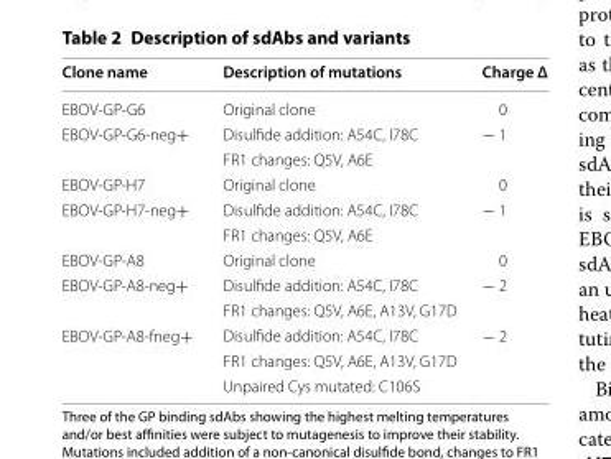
<table><thead><tr><td>Clone name</td><td>Description of mutations</td><td>Charge Δ</td></tr></thead><tbody><tr><td>EBOV‑GP‑G6</td><td>Original clone</td><td>0</td></tr><tr><td rowspan="2">EBOV‑GP‑G6‑neg+</td><td>Disulfide addition: A54C, I78C</td><td rowspan="2">− 1</td></tr><tr><td>FR1 changes: Q5V, A6E</td></tr><tr><td>EBOV‑GP‑H7</td><td>Original clone</td><td>0</td></tr><tr><td rowspan="2">EBOV‑GP‑H7‑neg+</td><td>Disulfide addition: A54C, I78C</td><td rowspan="2">− 1</td></tr><tr><td>FR1 changes: Q5V, A6E</td></tr><tr><td>EBOV‑GP‑A8</td><td>Original clone</td><td>0</td></tr><tr><td rowspan="2">EBOV‑GP‑A8‑neg+</td><td>Disulfide addition: A54C, I78C</td><td rowspan="2">− 2</td></tr><tr><td>FR1 changes: Q5V, A6E, A13V, G17D</td></tr><tr><td rowspan="3">EBOV‑GP‑A8‑fneg+</td><td>Disulfide addition: A54C, I78C</td><td rowspan="3">− 2</td></tr><tr><td>FR1 changes: Q5V, A6E, A13V, G17D</td></tr><tr><td>Unpaired Cys mutated: C106S</td></tr></tbody></table>